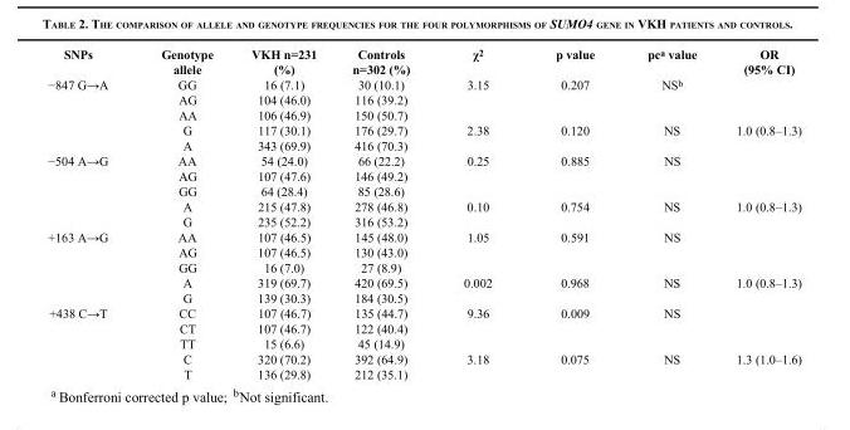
<table><thead><tr><td>SNPs</td><td>Genotype allele</td><td>VKH n=231 (%)</td><td>Controls n=302 (%)</td><td>χ<sup>2</sup></td><td>p value</td><td>pc<sup>a</sup> value</td><td>OR (95% CI)</td></tr></thead><tbody><tr><td rowspan="5">−847 G→A</td><td>GG</td><td>16 (7.1)</td><td>30 (10.1)</td><td>3.15</td><td>0.207</td><td>NS<sup>b</sup></td><td></td></tr><tr><td>AG</td><td>104 (46.0)</td><td>116 (39.2)</td><td></td><td></td><td></td><td></td></tr><tr><td>AA</td><td>106 (46.9)</td><td>150 (50.7)</td><td></td><td></td><td></td><td></td></tr><tr><td>G</td><td>117 (30.1)</td><td>176 (29.7)</td><td>2.38</td><td>0.120</td><td>NS</td><td>1.0 (0.8–1.3)</td></tr><tr><td>A</td><td>343 (69.9)</td><td>416 (70.3)</td><td></td><td></td><td></td><td></td></tr><tr><td rowspan="5">−504 A→G</td><td>AA</td><td>54 (24.0)</td><td>66 (22.2)</td><td>0.25</td><td>0.885</td><td>NS</td><td></td></tr><tr><td>AG</td><td>107 (47.6)</td><td>146 (49.2)</td><td></td><td></td><td></td><td></td></tr><tr><td>GG</td><td>64 (28.4)</td><td>85 (28.6)</td><td></td><td></td><td></td><td></td></tr><tr><td>A</td><td>215 (47.8)</td><td>278 (46.8)</td><td>0.10</td><td>0.754</td><td>NS</td><td>1.0 (0.8–1.3)</td></tr><tr><td>G</td><td>235 (52.2)</td><td>316 (53.2)</td><td></td><td></td><td></td><td></td></tr><tr><td rowspan="5">+163 A→G</td><td>AA</td><td>107 (46.5)</td><td>145 (48.0)</td><td>1.05</td><td>0.591</td><td>NS</td><td></td></tr><tr><td>AG</td><td>107 (46.5)</td><td>130 (43.0)</td><td></td><td></td><td></td><td></td></tr><tr><td>GG</td><td>16 (7.0)</td><td>27 (8.9)</td><td></td><td></td><td></td><td></td></tr><tr><td>A</td><td>319 (69.7)</td><td>420 (69.5)</td><td>0.002</td><td>0.968</td><td>NS</td><td>1.0 (0.8–1.3)</td></tr><tr><td>G</td><td>139 (30.3)</td><td>184 (30.5)</td><td></td><td></td><td></td><td></td></tr><tr><td rowspan="5">+438 C→T</td><td>CC</td><td>107 (46.7)</td><td>135 (44.7)</td><td>9.36</td><td>0.009</td><td>NS</td><td></td></tr><tr><td>CT</td><td>107 (46.7)</td><td>122 (40.4)</td><td></td><td></td><td></td><td></td></tr><tr><td>TT</td><td>15 (6.6)</td><td>45 (14.9)</td><td></td><td></td><td></td><td></td></tr><tr><td>C</td><td>320 (70.2)</td><td>392 (64.9)</td><td>3.18</td><td>0.075</td><td>NS</td><td>1.3 (1.0–1.6)</td></tr><tr><td>T</td><td>136 (29.8)</td><td>212 (35.1)</td><td></td><td></td><td></td><td></td></tr></tbody></table>